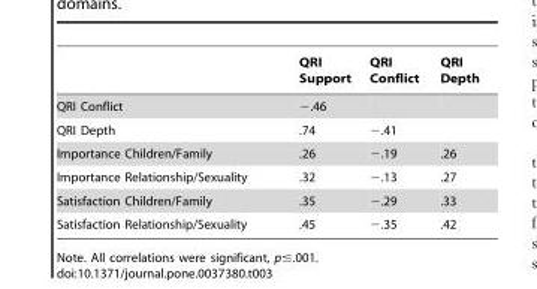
<table><thead><tr><td></td><td>QRI Support</td><td>QRI Conflict</td><td>QRI Depth</td></tr></thead><tbody><tr><td>QRI Conflict</td><td>−.46</td><td></td><td></td></tr><tr><td>QRI Depth</td><td>.74</td><td>−.41</td><td></td></tr><tr><td>Importance Children/Family</td><td>.26</td><td>−.19</td><td>.26</td></tr><tr><td>Importance Relationship/Sexuality</td><td>.32</td><td>−.13</td><td>.27</td></tr><tr><td>Satisfaction Children/Family</td><td>.35</td><td>−.29</td><td>.33</td></tr><tr><td>Satisfaction Relationship/Sexuality</td><td>.45</td><td>−.35</td><td>.42</td></tr></tbody></table>